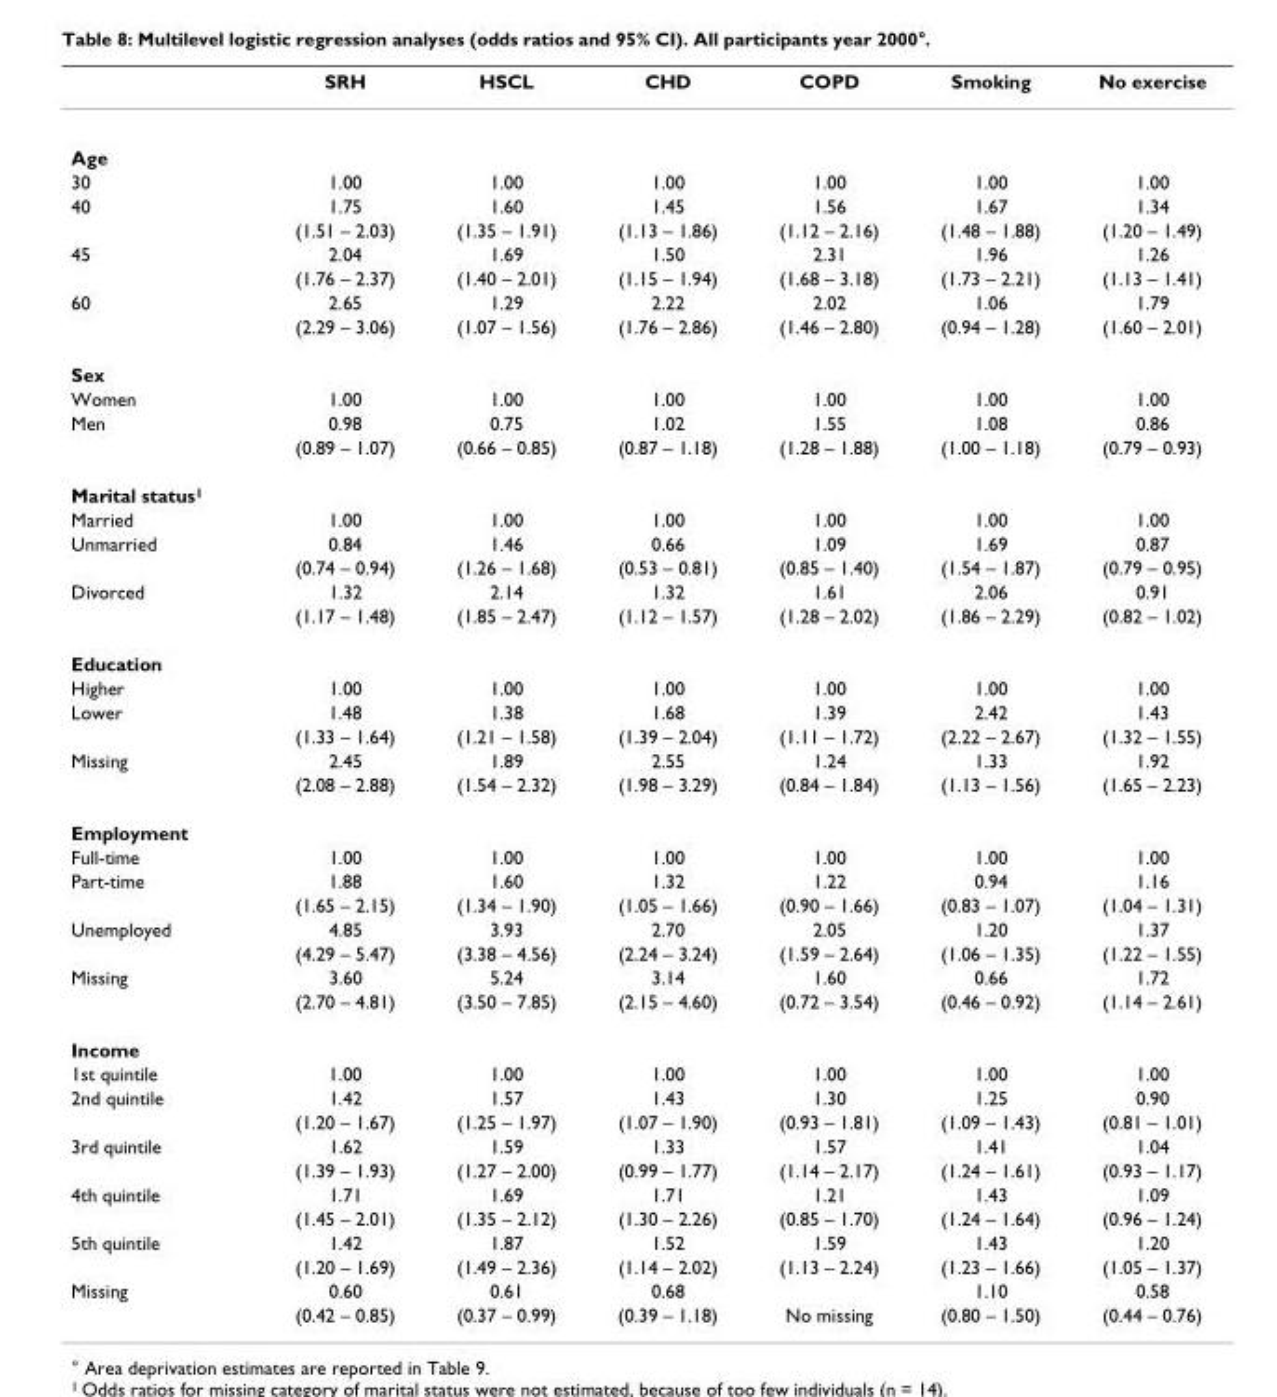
<table><thead><tr><td></td><td>SRH</td><td>HSCL</td><td>CHD</td><td>COPD</td><td>Smoking</td><td>No exercise</td></tr></thead><tbody><tr><td colspan="7">Age</td></tr><tr><td>30</td><td>1.00</td><td>1.00</td><td>1.00</td><td>1.00</td><td>1.00</td><td>1.00</td></tr><tr><td rowspan="2">40</td><td>1.75</td><td>1.60</td><td>1.45</td><td>1.56</td><td>1.67</td><td>1.34</td></tr><tr><td>(1.51 – 2.03)</td><td>(1.35 – 1.91)</td><td>(1.13 – 1.86)</td><td>(1.12 – 2.16)</td><td>(1.48 – 1.88)</td><td>(1.20 – 1.49)</td></tr><tr><td rowspan="2">45</td><td>2.04</td><td>1.69</td><td>1.50</td><td>2.31</td><td>1.96</td><td>1.26</td></tr><tr><td>(1.76 – 2.37)</td><td>(1.40 – 2.01)</td><td>(1.15 – 1.94)</td><td>(1.68 – 3.18)</td><td>(1.73 – 2.21)</td><td>(1.13 – 1.41)</td></tr><tr><td rowspan="2">60</td><td>2.65</td><td>1.29</td><td>2.22</td><td>2.02</td><td>1.06</td><td>1.79</td></tr><tr><td>(2.29 – 3.06)</td><td>(1.07 – 1.56)</td><td>(1.76 – 2.86)</td><td>(1.46 – 2.80)</td><td>(0.94 – 1.28)</td><td>(1.60 – 2.01)</td></tr><tr><td colspan="7">Sex</td></tr><tr><td>Women</td><td>1.00</td><td>1.00</td><td>1.00</td><td>1.00</td><td>1.00</td><td>1.00</td></tr><tr><td rowspan="2">Men</td><td>0.98</td><td>0.75</td><td>1.02</td><td>1.55</td><td>1.08</td><td>0.86</td></tr><tr><td>(0.89 – 1.07)</td><td>(0.66 – 0.85)</td><td>(0.87 – 1.18)</td><td>(1.28 – 1.88)</td><td>(1.00 – 1.18)</td><td>(0.79 – 0.93)</td></tr><tr><td colspan="7">Marital status<sup>1</sup></td></tr><tr><td>Married</td><td>1.00</td><td>1.00</td><td>1.00</td><td>1.00</td><td>1.00</td><td>1.00</td></tr><tr><td rowspan="2">Unmarried</td><td>0.84</td><td>1.46</td><td>0.66</td><td>1.09</td><td>1.69</td><td>0.87</td></tr><tr><td>(0.74 – 0.94)</td><td>(1.26 – 1.68)</td><td>(0.53 – 0.81)</td><td>(0.85 – 1.40)</td><td>(1.54 – 1.87)</td><td>(0.79 – 0.95)</td></tr><tr><td rowspan="2">Divorced</td><td>1.32</td><td>2.14</td><td>1.32</td><td>1.61</td><td>2.06</td><td>0.91</td></tr><tr><td>(1.17 – 1.48)</td><td>(1.85 – 2.47)</td><td>(1.12 – 1.57)</td><td>(1.28 – 2.02)</td><td>(1.86 – 2.29)</td><td>(0.82 – 1.02)</td></tr><tr><td colspan="7">Education</td></tr><tr><td>Higher</td><td>1.00</td><td>1.00</td><td>1.00</td><td>1.00</td><td>1.00</td><td>1.00</td></tr><tr><td rowspan="2">Lower</td><td>1.48</td><td>1.38</td><td>1.68</td><td>1.39</td><td>2.42</td><td>1.43</td></tr><tr><td>(1.33 – 1.64)</td><td>(1.21 – 1.58)</td><td>(1.39 – 2.04)</td><td>(1.11 – 1.72)</td><td>(2.22 – 2.67)</td><td>(1.32 – 1.55)</td></tr><tr><td rowspan="2">Missing</td><td>2.45</td><td>1.89</td><td>2.55</td><td>1.24</td><td>1.33</td><td>1.92</td></tr><tr><td>(2.08 – 2.88)</td><td>(1.54 – 2.32)</td><td>(1.98 – 3.29)</td><td>(0.84 – 1.84)</td><td>(1.13 – 1.56)</td><td>(1.65 – 2.23)</td></tr><tr><td colspan="7">Employment</td></tr><tr><td>Full-time</td><td>1.00</td><td>1.00</td><td>1.00</td><td>1.00</td><td>1.00</td><td>1.00</td></tr><tr><td rowspan="2">Part-time</td><td>1.88</td><td>1.60</td><td>1.32</td><td>1.22</td><td>0.94</td><td>1.16</td></tr><tr><td>(1.65 – 2.15)</td><td>(1.34 – 1.90)</td><td>(1.05 – 1.66)</td><td>(0.90 – 1.66)</td><td>(0.83 – 1.07)</td><td>(1.04 – 1.31)</td></tr><tr><td rowspan="2">Unemployed</td><td>4.85</td><td>3.93</td><td>2.70</td><td>2.05</td><td>1.20</td><td>1.37</td></tr><tr><td>(4.29 – 5.47)</td><td>(3.38 – 4.56)</td><td>(2.24 – 3.24)</td><td>(1.59 – 2.64)</td><td>(1.06 – 1.35)</td><td>(1.22 – 1.55)</td></tr><tr><td rowspan="2">Missing</td><td>3.60</td><td>5.24</td><td>3.14</td><td>1.60</td><td>0.66</td><td>1.72</td></tr><tr><td>(2.70 – 4.81)</td><td>(3.50 – 7.85)</td><td>(2.15 – 4.60)</td><td>(0.72 – 3.54)</td><td>(0.46 – 0.92)</td><td>(1.14 – 2.61)</td></tr><tr><td colspan="7">Income</td></tr><tr><td>1st quintile</td><td>1.00</td><td>1.00</td><td>1.00</td><td>1.00</td><td>1.00</td><td>1.00</td></tr><tr><td rowspan="2">2nd quintile</td><td>1.42</td><td>1.57</td><td>1.43</td><td>1.30</td><td>1.25</td><td>0.90</td></tr><tr><td>(1.20 – 1.67)</td><td>(1.25 – 1.97)</td><td>(1.07 – 1.90)</td><td>(0.93 – 1.81)</td><td>(1.09 – 1.43)</td><td>(0.81 – 1.01)</td></tr><tr><td rowspan="2">3rd quintile</td><td>1.62</td><td>1.59</td><td>1.33</td><td>1.57</td><td>1.41</td><td>1.04</td></tr><tr><td>(1.39 – 1.93)</td><td>(1.27 – 2.00)</td><td>(0.99 – 1.77)</td><td>(1.14 – 2.17)</td><td>(1.24 – 1.61)</td><td>(0.93 – 1.17)</td></tr><tr><td rowspan="2">4th quintile</td><td>1.71</td><td>1.69</td><td>1.71</td><td>1.21</td><td>1.43</td><td>1.09</td></tr><tr><td>(1.45 – 2.01)</td><td>(1.35 – 2.12)</td><td>(1.30 – 2.26)</td><td>(0.85 – 1.70)</td><td>(1.24 – 1.64)</td><td>(0.96 – 1.24)</td></tr><tr><td rowspan="2">5th quintile</td><td>1.42</td><td>1.87</td><td>1.52</td><td>1.59</td><td>1.43</td><td>1.20</td></tr><tr><td>(1.20 – 1.69)</td><td>(1.49 – 2.36)</td><td>(1.14 – 2.02)</td><td>(1.13 – 2.24)</td><td>(1.23 – 1.66)</td><td>(1.05 – 1.37)</td></tr><tr><td rowspan="2">Missing</td><td>0.60</td><td>0.61</td><td>0.68</td><td></td><td>1.10</td><td>0.58</td></tr><tr><td>(0.42 – 0.85)</td><td>(0.37 – 0.99)</td><td>(0.39 – 1.18)</td><td>No missing</td><td>(0.80 – 1.50)</td><td>(0.44 – 0.76)</td></tr></tbody></table>